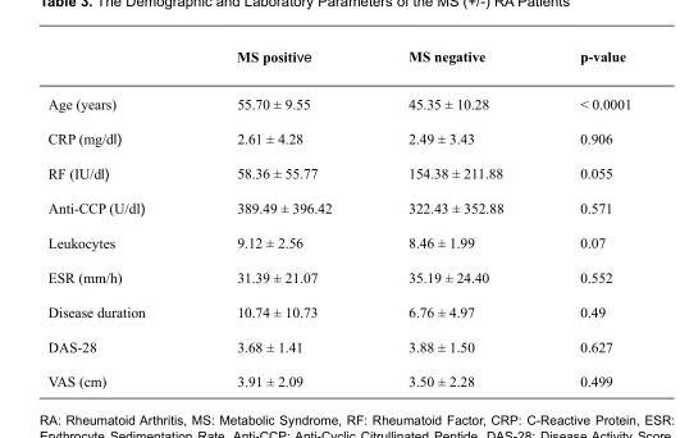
<table><thead><tr><td></td><td>MS positive</td><td>MS negative</td><td>p-value</td></tr></thead><tbody><tr><td>Age (years)</td><td>55.70 ± 9.55</td><td>45.35 ± 10.28</td><td>&lt; 0.0001</td></tr><tr><td>CRP (mg/dl)</td><td>2.61 ± 4.28</td><td>2.49 ± 3.43</td><td>0.906</td></tr><tr><td>RF (IU/dl)</td><td>58.36 ± 55.77</td><td>154.38 ± 211.88</td><td>0.055</td></tr><tr><td>Anti-CCP (U/dl)</td><td>389.49 ± 396.42</td><td>322.43 ± 352.88</td><td>0.571</td></tr><tr><td>Leukocytes</td><td>9.12 ± 2.56</td><td>8.46 ± 1.99</td><td>0.07</td></tr><tr><td>ESR (mm/h)</td><td>31.39 ± 21.07</td><td>35.19 ± 24.40</td><td>0.552</td></tr><tr><td>Disease duration</td><td>10.74 ± 10.73</td><td>6.76 ± 4.97</td><td>0.49</td></tr><tr><td>DAS-28</td><td>3.68 ± 1.41</td><td>3.88 ± 1.50</td><td>0.627</td></tr><tr><td>VAS (cm)</td><td>3.91 ± 2.09</td><td>3.50 ± 2.28</td><td>0.499</td></tr></tbody></table>